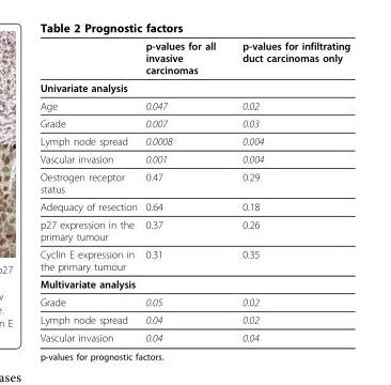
<table><thead><tr><td></td><td>p-values for all invasive carcinomas</td><td>p-values for infiltrating duct carcinomas only</td></tr></thead><tbody><tr><td colspan="3">Univariate analysis</td></tr><tr><td>Age</td><td>0.047</td><td>0.02</td></tr><tr><td>Grade</td><td>0.007</td><td>0.03</td></tr><tr><td>Lymph node spread</td><td>0.0008</td><td>0.004</td></tr><tr><td>Vascular invasion</td><td>0.001</td><td>0.004</td></tr><tr><td>Oestrogen receptor status</td><td>0.47</td><td>0.29</td></tr><tr><td>Adequacy of resection</td><td>0.64</td><td>0.18</td></tr><tr><td>p27 expression in the primary tumour</td><td>0.37</td><td>0.26</td></tr><tr><td>Cyclin E expression in the primary tumour</td><td>0.31</td><td>0.35</td></tr><tr><td colspan="3">Multivariate analysis</td></tr><tr><td>Grade</td><td>0.05</td><td>0.02</td></tr><tr><td>Lymph node spread</td><td>0.04</td><td>0.02</td></tr><tr><td>Vascular invasion</td><td>0.04</td><td>0.04</td></tr></tbody></table>